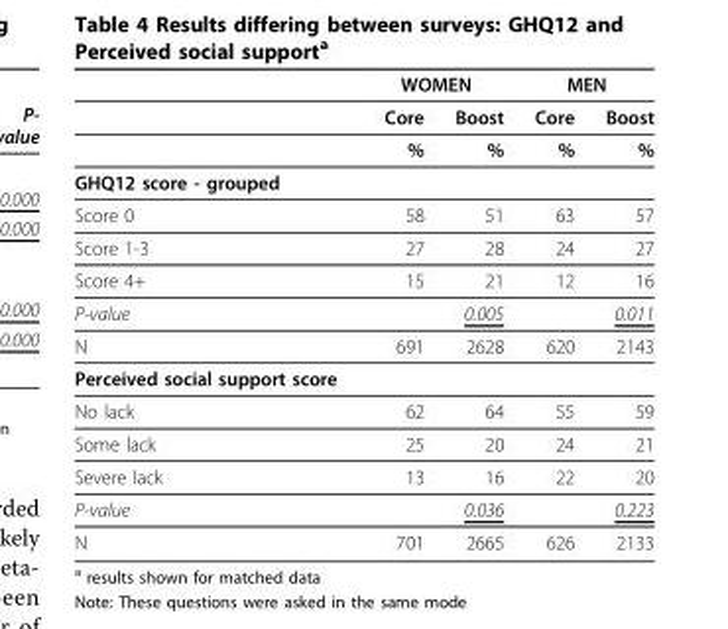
<table><thead><tr><td rowspan="2"></td><td colspan="2">WOMEN</td><td colspan="2">MEN</td></tr><tr><td>Core</td><td>Boost</td><td>Core</td><td>Boost</td></tr></thead><tbody><tr><td></td><td>%</td><td>%</td><td>%</td><td>%</td></tr><tr><td colspan="5">GHQ12 score - grouped</td></tr><tr><td>Score 0</td><td>58</td><td>51</td><td>63</td><td>57</td></tr><tr><td>Score 1-3</td><td>27</td><td>28</td><td>24</td><td>27</td></tr><tr><td>Score 4+</td><td>15</td><td>21</td><td>12</td><td>16</td></tr><tr><td>P-value</td><td></td><td>0.005</td><td></td><td>0.011</td></tr><tr><td>N</td><td>691</td><td>2628</td><td>620</td><td>2143</td></tr><tr><td colspan="5">Perceived social support score</td></tr><tr><td>No lack</td><td>62</td><td>64</td><td>55</td><td>59</td></tr><tr><td>Some lack</td><td>25</td><td>20</td><td>24</td><td>21</td></tr><tr><td>Severe lack</td><td>13</td><td>16</td><td>22</td><td>20</td></tr><tr><td>P-value</td><td></td><td>0.036</td><td></td><td>0.223</td></tr><tr><td>N</td><td>701</td><td>2665</td><td>626</td><td>2133</td></tr></tbody></table>